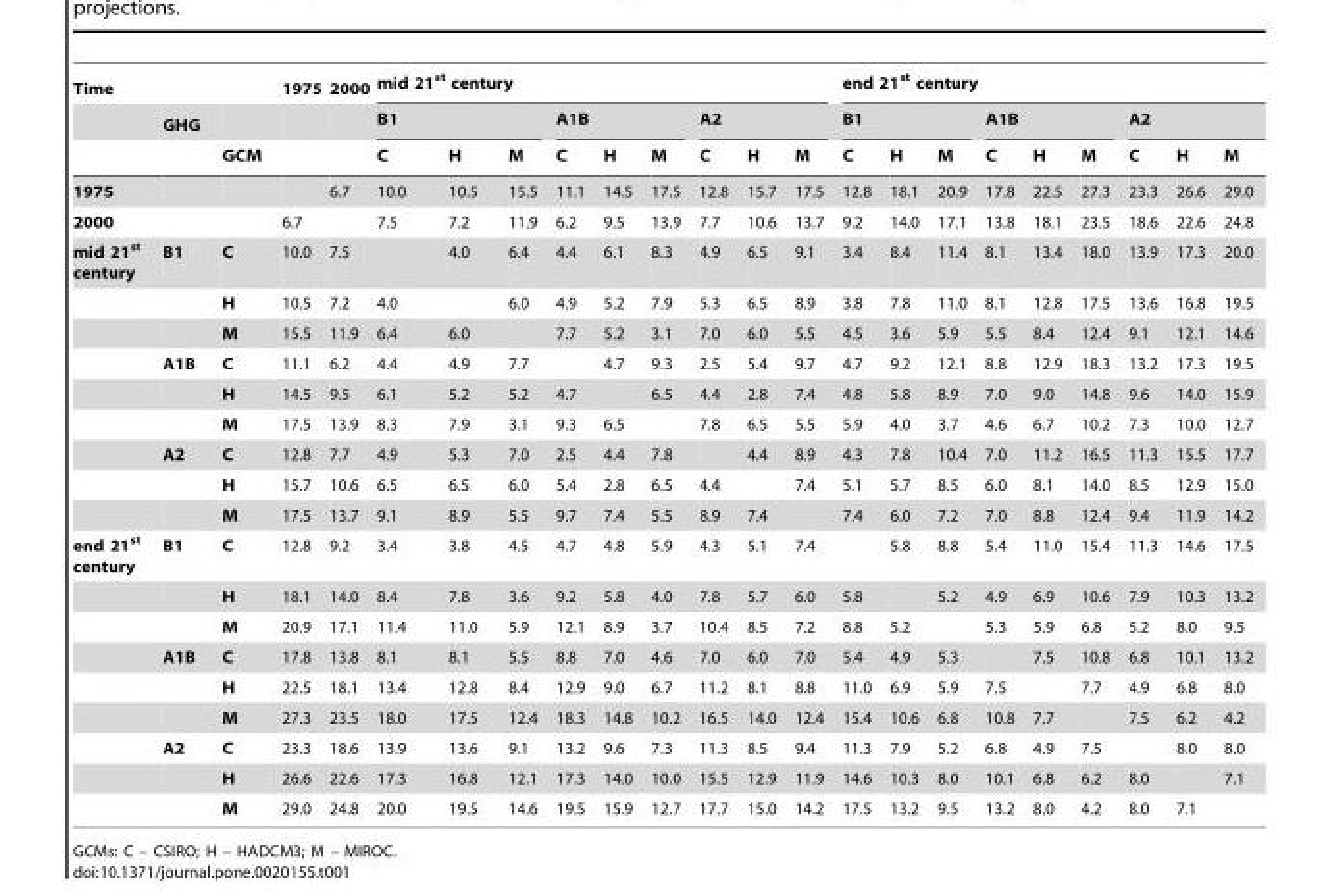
<table><thead><tr><td rowspan="3">Time</td><td rowspan="3">GHG</td><td rowspan="3">GCM</td><td rowspan="3">1975</td><td rowspan="3">2000</td><td colspan="9">mid 21<sup>st</sup> century</td><td colspan="9">end 21st century</td></tr><tr><td colspan="3">B1</td><td colspan="3">A1B</td><td colspan="3">A2</td><td colspan="3">B1</td><td colspan="3">A1B</td><td colspan="3">A2</td></tr><tr><td>C</td><td>H</td><td>M</td><td>C</td><td>H</td><td>M</td><td>C</td><td>H</td><td>M</td><td>C</td><td>H</td><td>M</td><td>C</td><td>H</td><td>M</td><td>C</td><td>H</td><td>M</td></tr></thead><tbody><tr><td>1975</td><td></td><td></td><td></td><td>6.7</td><td>10.0</td><td>10.5</td><td>15.5</td><td>11.1</td><td>14.5</td><td>17.5</td><td>12.8</td><td>15.7</td><td>17.5</td><td>12.8</td><td>18.1</td><td>20.9</td><td>17.8</td><td>22.5</td><td>27.3</td><td>23.3</td><td>26.6</td><td>29.0</td></tr><tr><td>2000</td><td></td><td></td><td>6.7</td><td></td><td>7.5</td><td>7.2</td><td>11.9</td><td>6.2</td><td>9.5</td><td>13.9</td><td>7.7</td><td>10.6</td><td>13.7</td><td>9.2</td><td>14.0</td><td>17.1</td><td>13.8</td><td>18.1</td><td>23.5</td><td>18.6</td><td>22.6</td><td>24.8</td></tr><tr><td rowspan="9">mid 21<sup>st</sup> century</td><td>B1</td><td>C</td><td>10.0</td><td>7.5</td><td></td><td>4.0</td><td>6.4</td><td>4.4</td><td>6.1</td><td>8.3</td><td>4.9</td><td>6.5</td><td>9.1</td><td>3.4</td><td>8.4</td><td>11.4</td><td>8.1</td><td>13.4</td><td>18.0</td><td>13.9</td><td>17.3</td><td>20.0</td></tr><tr><td></td><td>H</td><td>10.5</td><td>7.2</td><td>4.0</td><td></td><td>6.0</td><td>4.9</td><td>5.2</td><td>7.9</td><td>5.3</td><td>6.5</td><td>8.9</td><td>3.8</td><td>7.8</td><td>11.0</td><td>8.1</td><td>12.8</td><td>17.5</td><td>13.6</td><td>16.8</td><td>19.5</td></tr><tr><td></td><td>M</td><td>15.5</td><td>11.9</td><td>6.4</td><td>6.0</td><td></td><td>7.7</td><td>5.2</td><td>3.1</td><td>7.0</td><td>6.0</td><td>5.5</td><td>4.5</td><td>3.6</td><td>5.9</td><td>5.5</td><td>8.4</td><td>12.4</td><td>9.1</td><td>12.1</td><td>14.6</td></tr><tr><td>A1B</td><td>C</td><td>11.1</td><td>6.2</td><td>4.4</td><td>4.9</td><td>7.7</td><td></td><td>4.7</td><td>9.3</td><td>2.5</td><td>5.4</td><td>9.7</td><td>4.7</td><td>9.2</td><td>12.1</td><td>8.8</td><td>12.9</td><td>18.3</td><td>13.2</td><td>17.3</td><td>19.5</td></tr><tr><td></td><td>H</td><td>14.5</td><td>9.5</td><td>6.1</td><td>5.2</td><td>5.2</td><td>4.7</td><td></td><td>6.5</td><td>4.4</td><td>2.8</td><td>7.4</td><td>4.8</td><td>5.8</td><td>8.9</td><td>7.0</td><td>9.0</td><td>14.8</td><td>9.6</td><td>14.0</td><td>15.9</td></tr><tr><td></td><td>M</td><td>17.5</td><td>13.9</td><td>8.3</td><td>7.9</td><td>3.1</td><td>9.3</td><td>6.5</td><td></td><td>7.8</td><td>6.5</td><td>5.5</td><td>5.9</td><td>4.0</td><td>3.7</td><td>4.6</td><td>6.7</td><td>10.2</td><td>7.3</td><td>10.0</td><td>12.7</td></tr><tr><td>A2</td><td>C</td><td>12.8</td><td>7.7</td><td>4.9</td><td>5.3</td><td>7.0</td><td>2.5</td><td>4.4</td><td>7.8</td><td></td><td>4.4</td><td>8.9</td><td>4.3</td><td>7.8</td><td>10.4</td><td>7.0</td><td>11.2</td><td>16.5</td><td>11.3</td><td>15.5</td><td>17.7</td></tr><tr><td></td><td>H</td><td>15.7</td><td>10.6</td><td>6.5</td><td>6.5</td><td>6.0</td><td>5.4</td><td>2.8</td><td>6.5</td><td>4.4</td><td></td><td>7.4</td><td>5.1</td><td>5.7</td><td>8.5</td><td>6.0</td><td>8.1</td><td>14.0</td><td>8.5</td><td>12.9</td><td>15.0</td></tr><tr><td></td><td>M</td><td>17.5</td><td>13.7</td><td>9.1</td><td>8.9</td><td>5.5</td><td>9.7</td><td>7.4</td><td>5.5</td><td>8.9</td><td>7.4</td><td></td><td>7.4</td><td>6.0</td><td>7.2</td><td>7.0</td><td>8.8</td><td>12.4</td><td>9.4</td><td>11.9</td><td>14.2</td></tr><tr><td rowspan="9">end 21<sup>st</sup> century</td><td>B1</td><td>C</td><td>12.8</td><td>9.2</td><td>3.4</td><td>3.8</td><td>4.5</td><td>4.7</td><td>4.8</td><td>5.9</td><td>4.3</td><td>5.1</td><td>7.4</td><td></td><td>5.8</td><td>8.8</td><td>5.4</td><td>11.0</td><td>15.4</td><td>11.3</td><td>14.6</td><td>17.5</td></tr><tr><td></td><td>H</td><td>18.1</td><td>14.0</td><td>8.4</td><td>7.8</td><td>3.6</td><td>9.2</td><td>5.8</td><td>4.0</td><td>7.8</td><td>5.7</td><td>6.0</td><td>5.8</td><td></td><td>5.2</td><td>4.9</td><td>6.9</td><td>10.6</td><td>7.9</td><td>10.3</td><td>13.2</td></tr><tr><td></td><td>M</td><td>20.9</td><td>17.1</td><td>11.4</td><td>11.0</td><td>5.9</td><td>12.1</td><td>8.9</td><td>3.7</td><td>10.4</td><td>8.5</td><td>7.2</td><td>8.8</td><td>5.2</td><td></td><td>5.3</td><td>5.9</td><td>6.8</td><td>5.2</td><td>8.0</td><td>9.5</td></tr><tr><td>A1B</td><td>C</td><td>17.8</td><td>13.8</td><td>8.1</td><td>8.1</td><td>5.5</td><td>8.8</td><td>7.0</td><td>4.6</td><td>7.0</td><td>6.0</td><td>7.0</td><td>5.4</td><td>4.9</td><td>5.3</td><td></td><td>7.5</td><td>10.8</td><td>6.8</td><td>10.1</td><td>13.2</td></tr><tr><td></td><td>H</td><td>22.5</td><td>18.1</td><td>13.4</td><td>12.8</td><td>8.4</td><td>12.9</td><td>9.0</td><td>6.7</td><td>11.2</td><td>8.1</td><td>8.8</td><td>11.0</td><td>6.9</td><td>5.9</td><td>7.5</td><td></td><td>7.7</td><td>4.9</td><td>6.8</td><td>8.0</td></tr><tr><td></td><td>M</td><td>27.3</td><td>23.5</td><td>18.0</td><td>17.5</td><td>12.4</td><td>18.3</td><td>14.8</td><td>10.2</td><td>16.5</td><td>14.0</td><td>12.4</td><td>15.4</td><td>10.6</td><td>6.8</td><td>10.8</td><td>7.7</td><td></td><td>7.5</td><td>6.2</td><td>4.2</td></tr><tr><td>A2</td><td>C</td><td>23.3</td><td>18.6</td><td>13.9</td><td>13.6</td><td>9.1</td><td>13.2</td><td>9.6</td><td>7.3</td><td>11.3</td><td>8.5</td><td>9.4</td><td>11.3</td><td>7.9</td><td>5.2</td><td>6.8</td><td>4.9</td><td>7.5</td><td></td><td>8.0</td><td>8.0</td></tr><tr><td></td><td>H</td><td>26.6</td><td>22.6</td><td>17.3</td><td>16.8</td><td>12.1</td><td>17.3</td><td>14.0</td><td>10.0</td><td>15.5</td><td>12.9</td><td>11.9</td><td>14.6</td><td>10.3</td><td>8.0</td><td>10.1</td><td>6.8</td><td>6.2</td><td>8.0</td><td></td><td>7.1</td></tr><tr><td></td><td>M</td><td>29.0</td><td>24.8</td><td>20.0</td><td>19.5</td><td>14.6</td><td>19.5</td><td>15.9</td><td>12.7</td><td>17.7</td><td>15.0</td><td>14.2</td><td>17.5</td><td>13.2</td><td>9.5</td><td>13.2</td><td>8.0</td><td>4.2</td><td>8.0</td><td>7.1</td><td></td></tr></tbody></table>